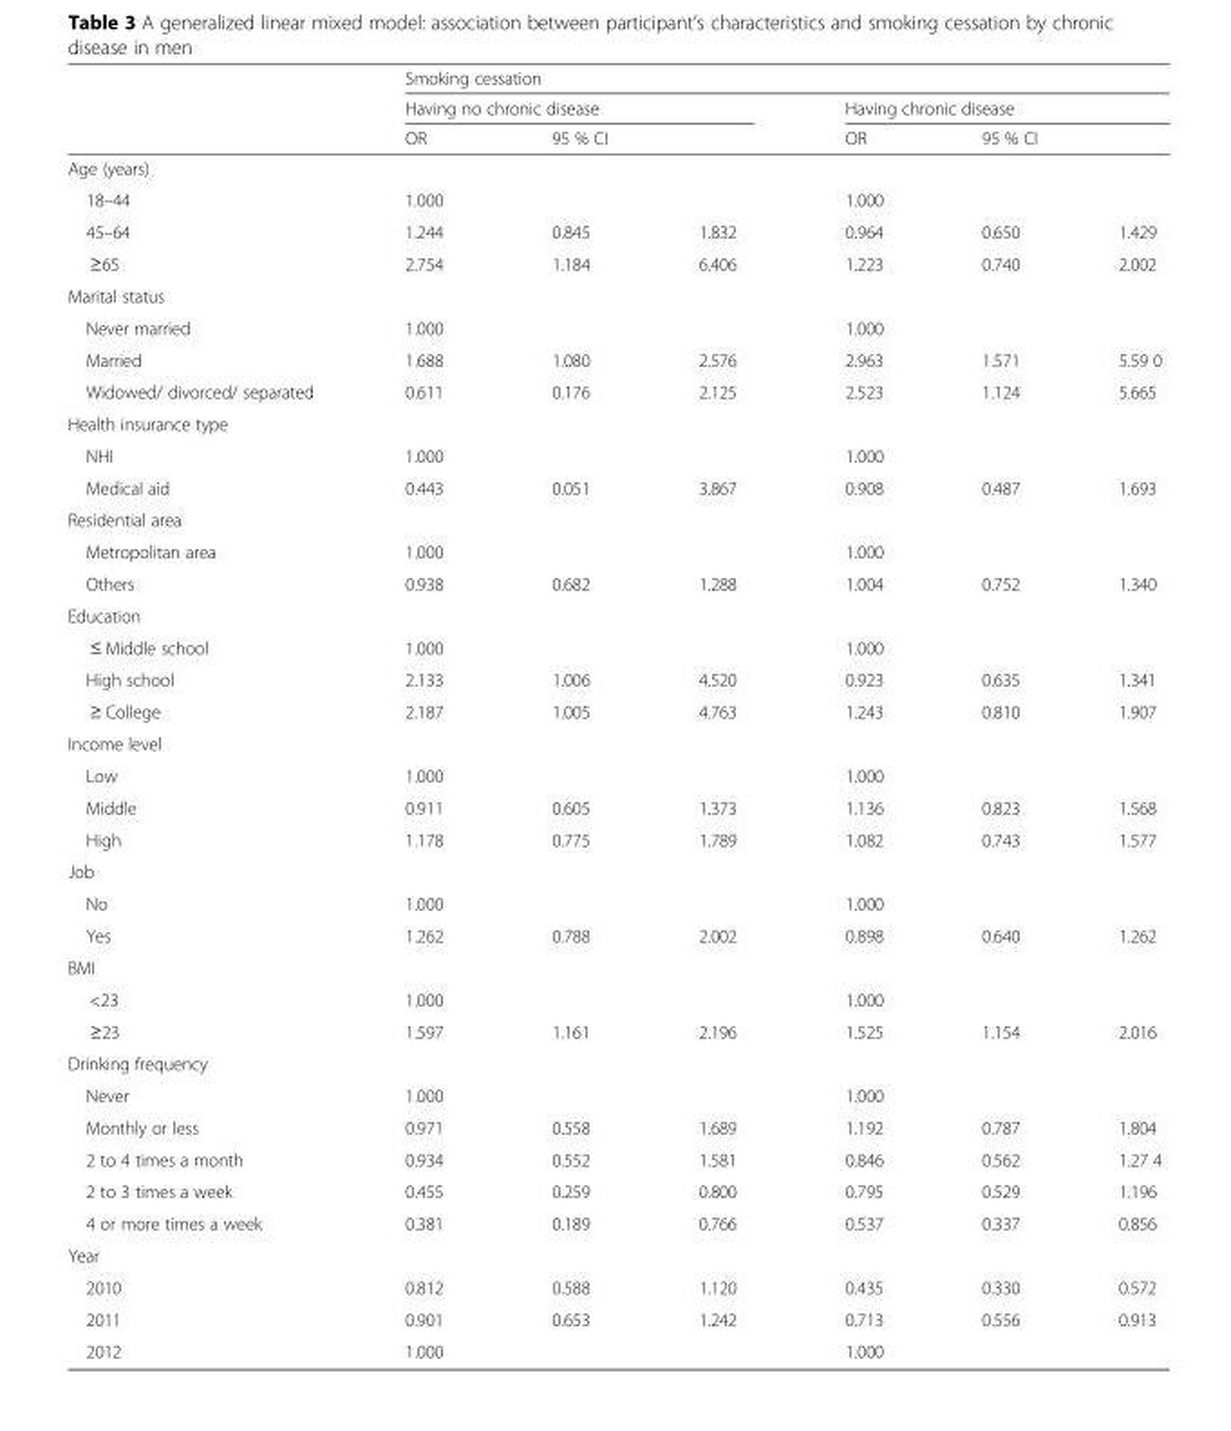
<table><thead><tr><td rowspan="3"></td><td colspan="6">Smoking cessation</td></tr><tr><td colspan="3">Having no chronic disease</td><td colspan="3">Having chronic disease</td></tr><tr><td>OR</td><td colspan="2">95 % CI</td><td>OR</td><td colspan="2">95 % CI</td></tr><tr><td colspan="7">Age (years)</td></tr><tr><td>18–44</td><td>1.000</td><td></td><td></td><td>1.000</td><td></td><td></td></tr></thead><tbody><tr><td>45–64</td><td>1.244</td><td>0.845</td><td>1.832</td><td>0.964</td><td>0.650</td><td>1.429</td></tr><tr><td>≥65</td><td>2.754</td><td>1.184</td><td>6.406</td><td>1.223</td><td>0.740</td><td>2.002</td></tr><tr><td colspan="7">Marital status</td></tr><tr><td>Never married</td><td>1.000</td><td></td><td></td><td>1.000</td><td></td><td></td></tr><tr><td>Married</td><td>1.688</td><td>1.080</td><td>2.576</td><td>2.963</td><td>1.571</td><td>5.59 0</td></tr><tr><td>Widowed/ divorced/ separated</td><td>0.611</td><td>0.176</td><td>2.125</td><td>2.523</td><td>1.124</td><td>5.665</td></tr><tr><td colspan="7">Health insurance type</td></tr><tr><td>NHI</td><td>1.000</td><td></td><td></td><td>1.000</td><td></td><td></td></tr><tr><td>Medical aid</td><td>0.443</td><td>0.051</td><td>3.867</td><td>0.908</td><td>0.487</td><td>1.693</td></tr><tr><td colspan="7">Residential area</td></tr><tr><td>Metropolitan area</td><td>1.000</td><td></td><td></td><td>1.000</td><td></td><td></td></tr><tr><td>Others</td><td>0.938</td><td>0.682</td><td>1.288</td><td>1.004</td><td>0.752</td><td>1.340</td></tr><tr><td colspan="7">Education</td></tr><tr><td>≤ Middle school</td><td>1.000</td><td></td><td></td><td>1.000</td><td></td><td></td></tr><tr><td>High school</td><td>2.133</td><td>1.006</td><td>4.520</td><td>0.923</td><td>0.635</td><td>1.341</td></tr><tr><td>≥ College</td><td>2.187</td><td>1.005</td><td>4.763</td><td>1.243</td><td>0.810</td><td>1.907</td></tr><tr><td colspan="7">Income level</td></tr><tr><td>Low</td><td>1.000</td><td></td><td></td><td>1.000</td><td></td><td></td></tr><tr><td>Middle</td><td>0.911</td><td>0.605</td><td>1.373</td><td>1.136</td><td>0.823</td><td>1.568</td></tr><tr><td>High</td><td>1.178</td><td>0.775</td><td>1.789</td><td>1.082</td><td>0.743</td><td>1.577</td></tr><tr><td colspan="7">Job</td></tr><tr><td>No</td><td>1.000</td><td></td><td></td><td>1.000</td><td></td><td></td></tr><tr><td>Yes</td><td>1.262</td><td>0.788</td><td>2.002</td><td>0.898</td><td>0.640</td><td>1.262</td></tr><tr><td colspan="7">BMI</td></tr><tr><td>&lt;23</td><td>1.000</td><td></td><td></td><td>1.000</td><td></td><td></td></tr><tr><td>≥23</td><td>1.597</td><td>1.161</td><td>2.196</td><td>1.525</td><td>1.154</td><td>2.016</td></tr><tr><td colspan="7">Drinking frequency</td></tr><tr><td>Never</td><td>1.000</td><td></td><td></td><td>1.000</td><td></td><td></td></tr><tr><td>Monthly or less</td><td>0.971</td><td>0.558</td><td>1.689</td><td>1.192</td><td>0.787</td><td>1.804</td></tr><tr><td>2 to 4 times a month</td><td>0.934</td><td>0.552</td><td>1.581</td><td>0.846</td><td>0.562</td><td>1.27 4</td></tr><tr><td>2 to 3 times a week</td><td>0.455</td><td>0.259</td><td>0.800</td><td>0.795</td><td>0.529</td><td>1.196</td></tr><tr><td>4 or more times a week</td><td>0.381</td><td>0.189</td><td>0.766</td><td>0.537</td><td>0.337</td><td>0.856</td></tr><tr><td colspan="7">Year</td></tr><tr><td>2010</td><td>0.812</td><td>0.588</td><td>1.120</td><td>0.435</td><td>0.330</td><td>0.572</td></tr><tr><td>2011</td><td>0.901</td><td>0.653</td><td>1.242</td><td>0.713</td><td>0.556</td><td>0.913</td></tr><tr><td>2012</td><td>1.000</td><td></td><td></td><td>1.000</td><td></td><td></td></tr></tbody></table>